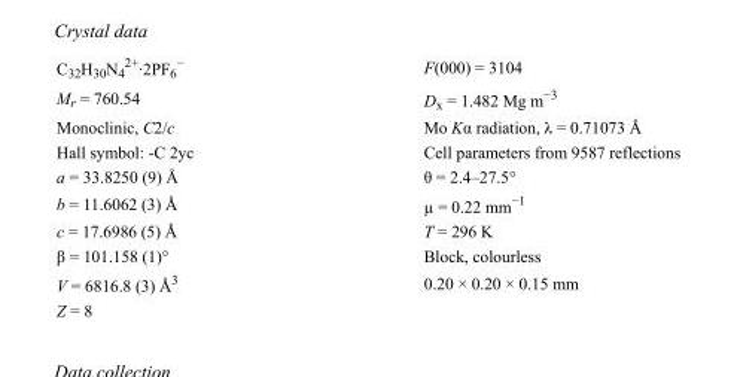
<table><tbody><tr><td>C<sub>32</sub>H<sub>30</sub>N<sub>4</sub> <sup>2+</sup>·2PF<sub>6</sub> <sup>−</sup></td><td>F(000) = 3104</td></tr><tr><td>M<sub>r</sub> = 760.54</td><td>D<sub>x</sub> = 1.482 Mg m<sup>−3</sup></td></tr><tr><td>Monoclinic, C2/c</td><td>Mo Kα radiation, λ = 0.71073 Å</td></tr><tr><td>Hall symbol: -C 2yc</td><td>Cell parameters from 9587 reflections</td></tr><tr><td>a = 33.8250 (9) Å</td><td>θ = 2.4–27.5°</td></tr><tr><td>b = 11.6062 (3) Å</td><td>µ = 0.22 mm<sup>−1</sup></td></tr><tr><td>c = 17.6986 (5) Å</td><td>T = 296 K</td></tr><tr><td>β = 101.158 (1)°</td><td>Block, colourless</td></tr><tr><td>V = 6816.8 (3) Å<sup>3</sup></td><td>0.20 × 0.20 × 0.15 mm</td></tr><tr><td>Z = 8</td><td></td></tr></tbody></table>